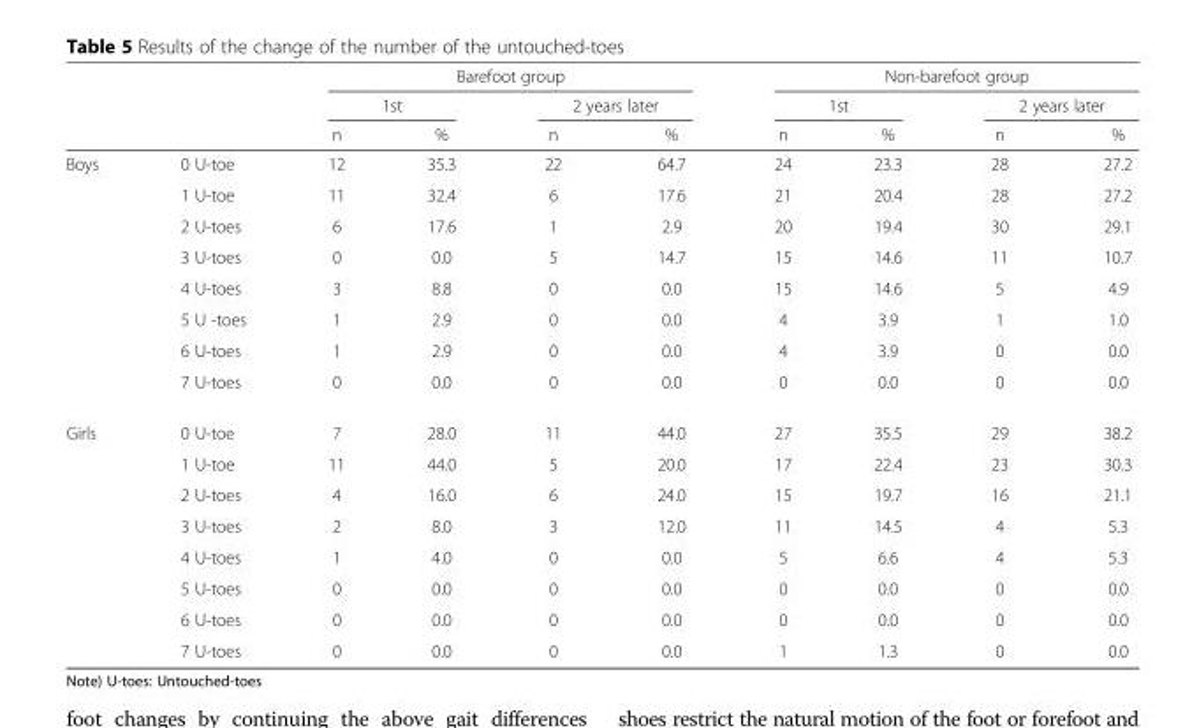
<table><thead><tr><td rowspan="3"></td><td rowspan="3"></td><td colspan="4">Barefoot group</td><td colspan="4">Non-barefoot group</td></tr><tr><td colspan="2">1st</td><td colspan="2">2 years later</td><td colspan="2">1st</td><td colspan="2">2 years later</td></tr><tr><td>n</td><td>%</td><td>n</td><td>%</td><td>n</td><td>%</td><td>n</td><td>%</td></tr></thead><tbody><tr><td rowspan="8">Boys</td><td>0 U-toe</td><td>12</td><td>35.3</td><td>22</td><td>64.7</td><td>24</td><td>23.3</td><td>28</td><td>27.2</td></tr><tr><td>1 U-toe</td><td>11</td><td>32.4</td><td>6</td><td>17.6</td><td>21</td><td>20.4</td><td>28</td><td>27.2</td></tr><tr><td>2 U-toes</td><td>6</td><td>17.6</td><td>1</td><td>2.9</td><td>20</td><td>19.4</td><td>30</td><td>29.1</td></tr><tr><td>3 U-toes</td><td>0</td><td>0.0</td><td>5</td><td>14.7</td><td>15</td><td>14.6</td><td>11</td><td>10.7</td></tr><tr><td>4 U-toes</td><td>3</td><td>8.8</td><td>0</td><td>0.0</td><td>15</td><td>14.6</td><td>5</td><td>4.9</td></tr><tr><td>5 U -toes</td><td>1</td><td>2.9</td><td>0</td><td>0.0</td><td>4</td><td>3.9</td><td>1</td><td>1.0</td></tr><tr><td>6 U-toes</td><td>1</td><td>2.9</td><td>0</td><td>0.0</td><td>4</td><td>3.9</td><td>0</td><td>0.0</td></tr><tr><td>7 U-toes</td><td>0</td><td>0.0</td><td>0</td><td>0.0</td><td>0</td><td>0.0</td><td>0</td><td>0.0</td></tr><tr><td rowspan="8">Girls</td><td>0 U-toe</td><td>7</td><td>28.0</td><td>11</td><td>44.0</td><td>27</td><td>35.5</td><td>29</td><td>38.2</td></tr><tr><td>1 U-toe</td><td>11</td><td>44.0</td><td>5</td><td>20.0</td><td>17</td><td>22.4</td><td>23</td><td>30.3</td></tr><tr><td>2 U-toes</td><td>4</td><td>16.0</td><td>6</td><td>24.0</td><td>15</td><td>19.7</td><td>16</td><td>21.1</td></tr><tr><td>3 U-toes</td><td>2</td><td>8.0</td><td>3</td><td>12.0</td><td>11</td><td>14.5</td><td>4</td><td>5.3</td></tr><tr><td>4 U-toes</td><td>1</td><td>4.0</td><td>0</td><td>0.0</td><td>5</td><td>6.6</td><td>4</td><td>5.3</td></tr><tr><td>5 U-toes</td><td>0</td><td>0.0</td><td>0</td><td>0.0</td><td>0</td><td>0.0</td><td>0</td><td>0.0</td></tr><tr><td>6 U-toes</td><td>0</td><td>0.0</td><td>0</td><td>0.0</td><td>0</td><td>0.0</td><td>0</td><td>0.0</td></tr><tr><td>7 U-toes</td><td>0</td><td>0.0</td><td>0</td><td>0.0</td><td>1</td><td>1.3</td><td>0</td><td>0.0</td></tr></tbody></table>